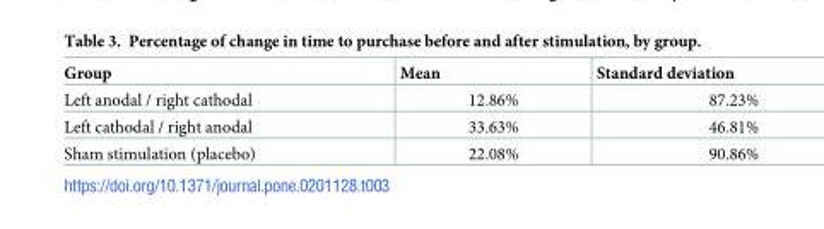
<table><thead><tr><td>Group</td><td>Mean</td><td>Standard deviation</td></tr></thead><tbody><tr><td>Left anodal / right cathodal</td><td>12.86%</td><td>87.23%</td></tr><tr><td>Left cathodal / right anodal</td><td>33.63%</td><td>46.81%</td></tr><tr><td>Sham stimulation (placebo)</td><td>22.08%</td><td>90.86%</td></tr></tbody></table>